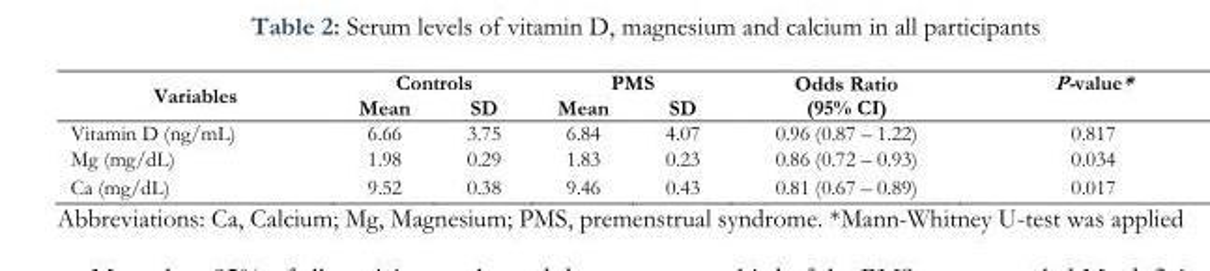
<table><tbody><tr><td rowspan="2">Variables</td><td colspan="2">Controls</td><td colspan="2">PMS</td><td rowspan="2">Odds Ratio (95% CI)</td><td rowspan="2">P-value*</td></tr><tr><td>Mean</td><td>SD</td><td>Mean</td><td>SD</td></tr><tr><td>Vitamin D (ng/mL)</td><td>6.66</td><td>3.75</td><td>6.84</td><td>4.07</td><td>0.96 (0.87 – 1.22)</td><td>0.817</td></tr><tr><td>Mg (mg/dL)</td><td>1.98</td><td>0.29</td><td>1.83</td><td>0.23</td><td>0.86 (0.72 – 0.93)</td><td>0.034</td></tr><tr><td>Ca (mg/dL)</td><td>9.52</td><td>0.38</td><td>9.46</td><td>0.43</td><td>0.81 (0.67 – 0.89)</td><td>0.017</td></tr></tbody></table>